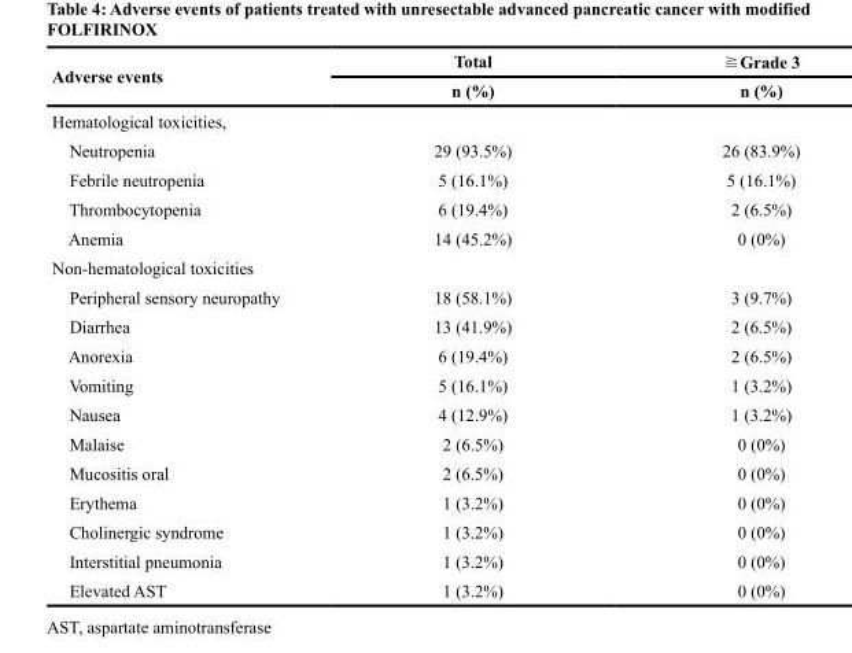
<table><thead><tr><td rowspan="2">Adverse events</td><td rowspan="2">Total n (%)</td><td rowspan="2">≧Grade 3 n (%)</td></tr><tr></tr></thead><tbody><tr><td colspan="3">Hematological toxicities,</td></tr><tr><td>Neutropenia</td><td>29 (93.5%)</td><td>26 (83.9%)</td></tr><tr><td>Febrile neutropenia</td><td>5 (16.1%)</td><td>5 (16.1%)</td></tr><tr><td>Thrombocytopenia</td><td>6 (19.4%)</td><td>2 (6.5%)</td></tr><tr><td>Anemia</td><td>14 (45.2%)</td><td>0 (0%)</td></tr><tr><td colspan="3">Non-hematological toxicities</td></tr><tr><td>Peripheral sensory neuropathy</td><td>18 (58.1%)</td><td>3 (9.7%)</td></tr><tr><td>Diarrhea</td><td>13 (41.9%)</td><td>2 (6.5%)</td></tr><tr><td>Anorexia</td><td>6 (19.4%)</td><td>2 (6.5%)</td></tr><tr><td>Vomiting</td><td>5 (16.1%)</td><td>1 (3.2%)</td></tr><tr><td>Nausea</td><td>4 (12.9%)</td><td>1 (3.2%)</td></tr><tr><td>Malaise</td><td>2 (6.5%)</td><td>0 (0%)</td></tr><tr><td>Mucositis oral</td><td>2 (6.5%)</td><td>0 (0%)</td></tr><tr><td>Erythema</td><td>1 (3.2%)</td><td>0 (0%)</td></tr><tr><td>Cholinergic syndrome</td><td>1 (3.2%)</td><td>0 (0%)</td></tr><tr><td>Interstitial pneumonia</td><td>1 (3.2%)</td><td>0 (0%)</td></tr><tr><td>Elevated AST</td><td>1 (3.2%)</td><td>0 (0%)</td></tr></tbody></table>